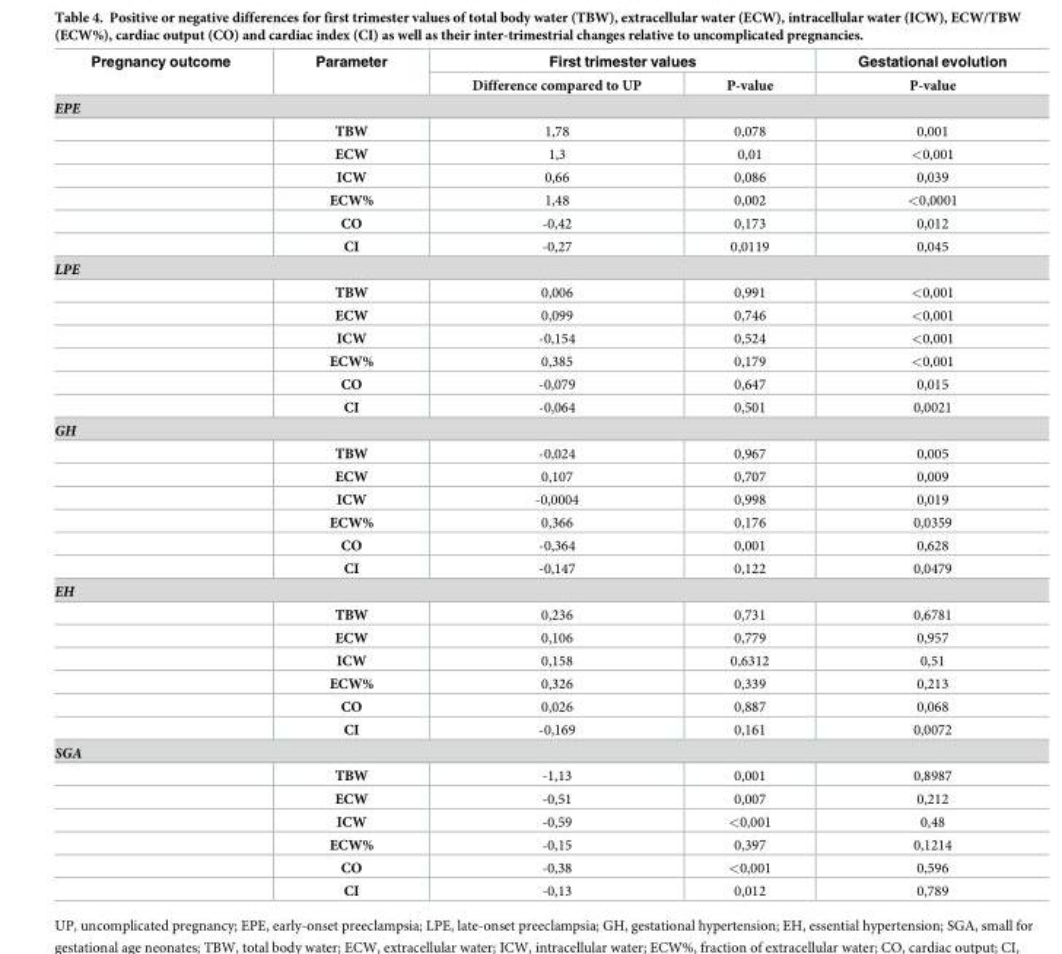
<table><thead><tr><td rowspan="2">Pregnancy outcome</td><td rowspan="2">Parameter</td><td colspan="2">First trimester values</td><td rowspan="2">Gestational evolution P-value</td></tr><tr><td>Difference compared to UP</td><td>P-value</td></tr></thead><tbody><tr><td colspan="5">EPE</td></tr><tr><td></td><td>TBW</td><td>1,78</td><td>0,078</td><td>0,001</td></tr><tr><td></td><td>ECW</td><td>1,3</td><td>0,01</td><td>&lt;0,001</td></tr><tr><td></td><td>ICW</td><td>0,66</td><td>0,086</td><td>0,039</td></tr><tr><td></td><td>ECW%</td><td>1,48</td><td>0,002</td><td>&lt;0,0001</td></tr><tr><td></td><td>CO</td><td>-0,42</td><td>0,173</td><td>0,012</td></tr><tr><td></td><td>CI</td><td>-0,27</td><td>0,0119</td><td>0,045</td></tr><tr><td colspan="5">LPE</td></tr><tr><td></td><td>TBW</td><td>0,006</td><td>0,991</td><td>&lt;0,001</td></tr><tr><td></td><td>ECW</td><td>0,099</td><td>0,746</td><td>&lt;0,001</td></tr><tr><td></td><td>ICW</td><td>-0,154</td><td>0,524</td><td>&lt;0,001</td></tr><tr><td></td><td>ECW%</td><td>0,385</td><td>0,179</td><td>&lt;0,001</td></tr><tr><td></td><td>CO</td><td>-0,079</td><td>0,647</td><td>0,015</td></tr><tr><td></td><td>CI</td><td>-0,064</td><td>0,501</td><td>0,0021</td></tr><tr><td colspan="5">GH</td></tr><tr><td></td><td>TBW</td><td>-0,024</td><td>0,967</td><td>0,005</td></tr><tr><td></td><td>ECW</td><td>0,107</td><td>0,707</td><td>0,009</td></tr><tr><td></td><td>ICW</td><td>-0,0004</td><td>0,998</td><td>0,019</td></tr><tr><td></td><td>ECW%</td><td>0,366</td><td>0,176</td><td>0,0359</td></tr><tr><td></td><td>CO</td><td>-0,364</td><td>0,001</td><td>0,628</td></tr><tr><td></td><td>CI</td><td>-0,147</td><td>0,122</td><td>0,0479</td></tr><tr><td colspan="5">EH</td></tr><tr><td></td><td>TBW</td><td>0,236</td><td>0,731</td><td>0,6781</td></tr><tr><td></td><td>ECW</td><td>0,106</td><td>0,779</td><td>0,957</td></tr><tr><td></td><td>ICW</td><td>0,158</td><td>0,6312</td><td>0,51</td></tr><tr><td></td><td>ECW%</td><td>0,326</td><td>0,339</td><td>0,213</td></tr><tr><td></td><td>CO</td><td>0,026</td><td>0,887</td><td>0,068</td></tr><tr><td></td><td>CI</td><td>-0,169</td><td>0,161</td><td>0,0072</td></tr><tr><td colspan="5">SGA</td></tr><tr><td></td><td>TBW</td><td>-1,13</td><td>0,001</td><td>0,8987</td></tr><tr><td></td><td>ECW</td><td>-0,51</td><td>0,007</td><td>0,212</td></tr><tr><td></td><td>ICW</td><td>-0,59</td><td>&lt;0,001</td><td>0,48</td></tr><tr><td></td><td>ECW%</td><td>-0,15</td><td>0,397</td><td>0,1214</td></tr><tr><td></td><td>CO</td><td>-0,38</td><td>&lt;0,001</td><td>0,596</td></tr><tr><td></td><td>CI</td><td>-0,13</td><td>0,012</td><td>0,789</td></tr></tbody></table>